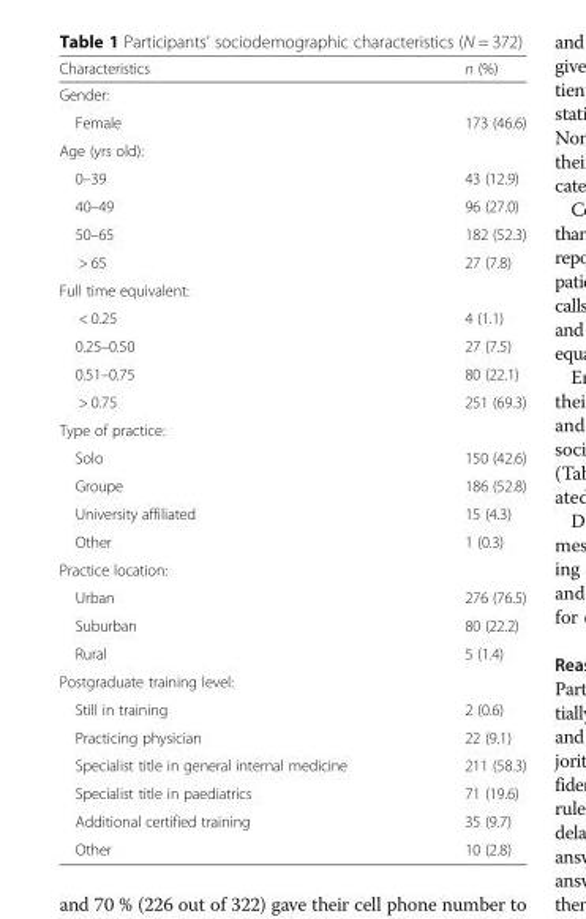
<table><thead><tr><td>Characteristics</td><td>n (%)</td></tr></thead><tbody><tr><td colspan="2">Gender:</td></tr><tr><td>Female</td><td>173 (46.6)</td></tr><tr><td colspan="2">Age (yrs old):</td></tr><tr><td>0–39</td><td>43 (12.9)</td></tr><tr><td>40–49</td><td>96 (27.0)</td></tr><tr><td>50–65</td><td>182 (52.3)</td></tr><tr><td>&gt; 65</td><td>27 (7.8)</td></tr><tr><td colspan="2">Full time equivalent:</td></tr><tr><td>&lt; 0.25</td><td>4 (1.1)</td></tr><tr><td>0.25–0.50</td><td>27 (7.5)</td></tr><tr><td>0.51–0.75</td><td>80 (22.1)</td></tr><tr><td>&gt; 0.75</td><td>251 (69.3)</td></tr><tr><td colspan="2">Type of practice:</td></tr><tr><td>Solo</td><td>150 (42.6)</td></tr><tr><td>Groupe</td><td>186 (52.8)</td></tr><tr><td>University affiliated</td><td>15 (4.3)</td></tr><tr><td>Other</td><td>1 (0.3)</td></tr><tr><td colspan="2">Practice location:</td></tr><tr><td>Urban</td><td>276 (76.5)</td></tr><tr><td>Suburban</td><td>80 (22.2)</td></tr><tr><td>Rural</td><td>5 (1.4)</td></tr><tr><td colspan="2">Postgraduate training level:</td></tr><tr><td>Still in training</td><td>2 (0.6)</td></tr><tr><td>Practicing physician</td><td>22 (9.1)</td></tr><tr><td>Specialist title in general internal medicine</td><td>211 (58.3)</td></tr><tr><td>Specialist title in paediatrics</td><td>71 (19.6)</td></tr><tr><td>Additional certified training</td><td>35 (9.7)</td></tr><tr><td>Other</td><td>10 (2.8)</td></tr></tbody></table>